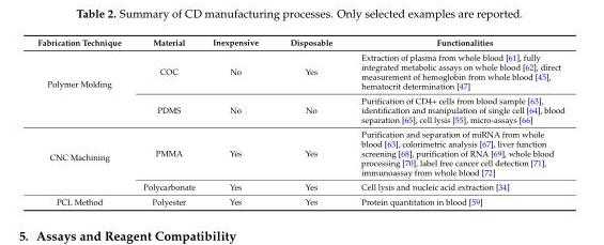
<table><thead><tr><td>Fabrication Technique</td><td>Material</td><td>Inexpensive</td><td>Disposable</td><td>Functionalities</td></tr></thead><tbody><tr><td rowspan="2">Polymer Molding</td><td>COC</td><td>No</td><td>Yes</td><td>Extraction of plasma from whole blood [61], fully integrated metabolic assays on whole blood [62], direct measurement of hemoglobin from whole blood [45], hematocrit determination [47]</td></tr><tr><td>PDMS</td><td>No</td><td>No</td><td>Purification of CD4+ cells from blood sample [63], identification and manipulation of single cell [64], blood separation [65], cell lysis [55], micro-assays [66]</td></tr><tr><td rowspan="2">CNC Machining</td><td>PMMA</td><td>Yes</td><td>Yes</td><td>Purification and separation of miRNA from whole blood [63], colorimetric analysis [67], liver function screening [68], purification of RNA [69], whole blood processing [70], label free cancer cell detection [71], immunoassay from whole blood [72]</td></tr><tr><td>Polycarbonate</td><td>Yes</td><td>Yes</td><td>Cell lysis and nucleic acid extraction [34]</td></tr><tr><td>PCL Method</td><td>Polyester</td><td>Yes</td><td>Yes</td><td>Protein quantitation in blood [59]</td></tr></tbody></table>